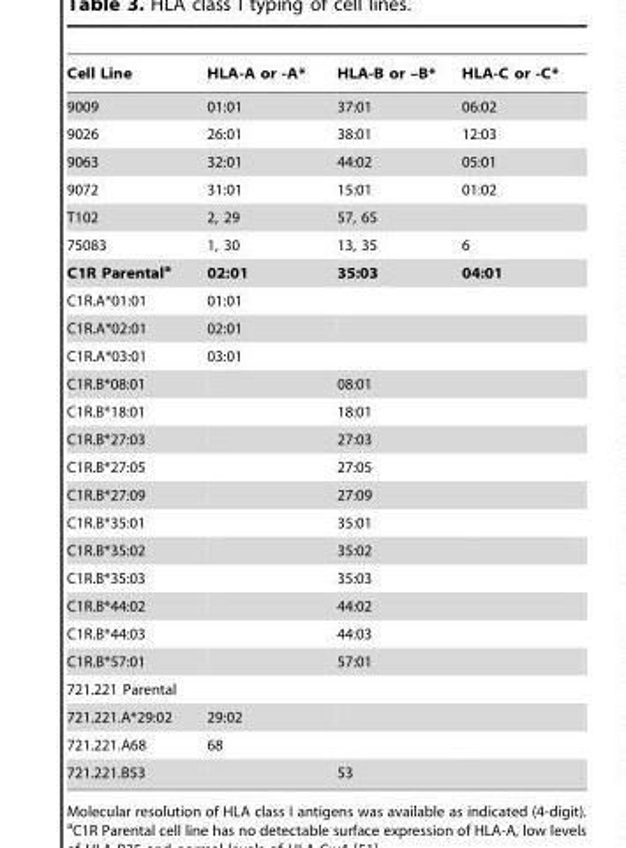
<table><thead><tr><td>Cell Line</td><td>HLA-A or -A*</td><td>HLA-B or –B*</td><td>HLA-C or -C*</td></tr></thead><tbody><tr><td>9009</td><td>01:01</td><td>37:01</td><td>06:02</td></tr><tr><td>9026</td><td>26:01</td><td>38:01</td><td>12:03</td></tr><tr><td>9063</td><td>32:01</td><td>44:02</td><td>05:01</td></tr><tr><td>9072</td><td>31:01</td><td>15:01</td><td>01:02</td></tr><tr><td>T102</td><td>2, 29</td><td>57, 65</td><td></td></tr><tr><td>75083</td><td>1, 30</td><td>13, 35</td><td>6</td></tr><tr><td>C1R Parentala</td><td>02:01</td><td>35:03</td><td>04:01</td></tr><tr><td>C1R.A*01:01</td><td>01:01</td><td></td><td></td></tr><tr><td>C1R.A*02:01</td><td>02:01</td><td></td><td></td></tr><tr><td>C1R.A*03:01</td><td>03:01</td><td></td><td></td></tr><tr><td>C1R.B*08:01</td><td></td><td>08:01</td><td></td></tr><tr><td>C1R.B*18:01</td><td></td><td>18:01</td><td></td></tr><tr><td>C1R.B*27:03</td><td></td><td>27:03</td><td></td></tr><tr><td>C1R.B*27:05</td><td></td><td>27:05</td><td></td></tr><tr><td>C1R.B*27:09</td><td></td><td>27:09</td><td></td></tr><tr><td>C1R.B*35:01</td><td></td><td>35:01</td><td></td></tr><tr><td>C1R.B*35:02</td><td></td><td>35:02</td><td></td></tr><tr><td>C1R.B*35:03</td><td></td><td>35:03</td><td></td></tr><tr><td>C1R.B*44:02</td><td></td><td>44:02</td><td></td></tr><tr><td>C1R.B*44:03</td><td></td><td>44:03</td><td></td></tr><tr><td>C1R.B*57:01</td><td></td><td>57:01</td><td></td></tr><tr><td colspan="4">721.221 Parental</td></tr><tr><td>721.221.A*29:02</td><td>29:02</td><td></td><td></td></tr><tr><td>721.221.A68</td><td>68</td><td></td><td></td></tr><tr><td>721.221.B53</td><td></td><td>53</td><td></td></tr></tbody></table>